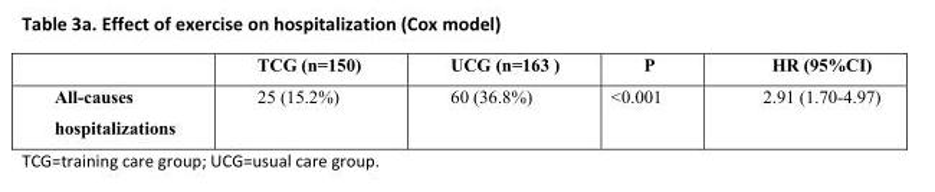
<table><thead><tr><td></td><td>TCG (n=150)</td><td>UCG (n=163 )</td><td>P</td><td>HR (95%CI)</td></tr></thead><tbody><tr><td>All-causes hospitalizations</td><td>25 (15.2%)</td><td>60 (36.8%)</td><td>&lt;0.001</td><td>2.91 (1.70-4.97)</td></tr></tbody></table>